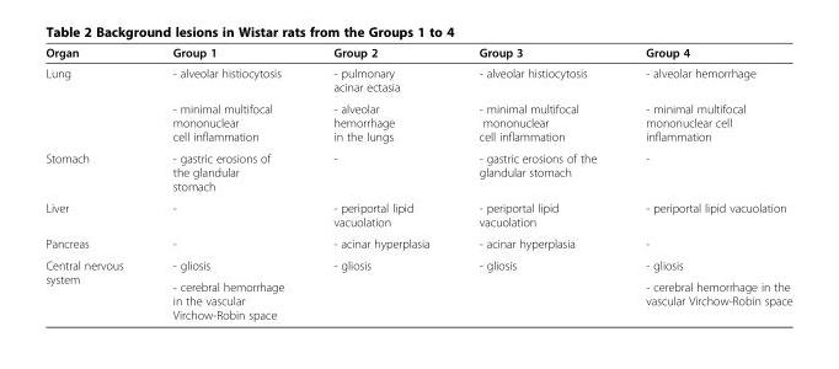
<table><thead><tr><td>Organ</td><td>Group 1</td><td>Group 2</td><td>Group 3</td><td>Group 4</td></tr></thead><tbody><tr><td rowspan="2">Lung</td><td>- alveolar histiocytosis</td><td>- pulmonary acinar ectasia</td><td>- alveolar histiocytosis</td><td>- alveolar hemorrhage</td></tr><tr><td>- minimal multifocal mononuclear cell inflammation</td><td>- alveolar hemorrhage in the lungs</td><td>- minimal multifocal mononuclear cell inflammation</td><td>- minimal multifocal mononuclear cell inflammation</td></tr><tr><td>Stomach</td><td>- gastric erosions of the glandular stomach</td><td>-</td><td>- gastric erosions of the glandular stomach</td><td>-</td></tr><tr><td>Liver</td><td>-</td><td>- periportal lipid vacuolation</td><td>- periportal lipid vacuolation</td><td>- periportal lipid vacuolation</td></tr><tr><td>Pancreas</td><td>-</td><td>- acinar hyperplasia</td><td>- acinar hyperplasia</td><td>-</td></tr><tr><td rowspan="2">Central nervous system</td><td>- gliosis</td><td rowspan="2">- gliosis</td><td rowspan="2">- gliosis</td><td>- gliosis</td></tr><tr><td>- cerebral hemorrhage in the vascular Virchow-Robin space</td><td>- cerebral hemorrhage in the vascular Virchow-Robin space</td></tr></tbody></table>